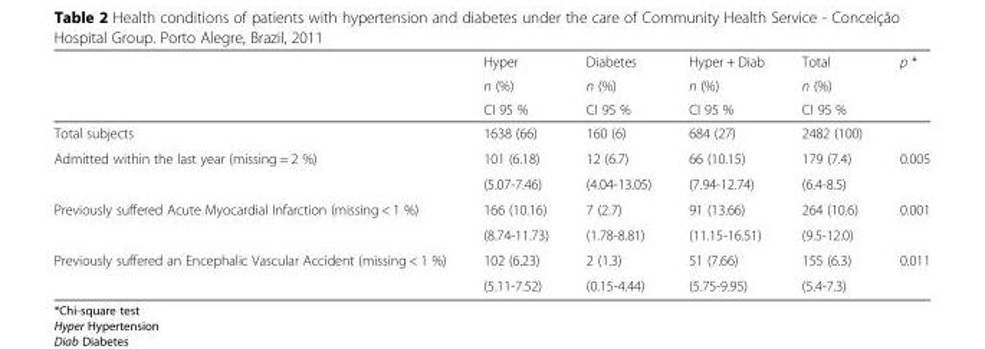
<table><thead><tr><td rowspan="3"></td><td rowspan="3">Hyper n (%) CI 95 %</td><td rowspan="3">Diabetes n (%) CI 95 %</td><td rowspan="3">Hyper + Diab n (%) CI 95 %</td><td rowspan="3">Total n (%) CI 95 %</td><td rowspan="3">p *</td></tr><tr></tr><tr></tr></thead><tbody><tr><td>Total subjects</td><td>1638 (66)</td><td>160 (6)</td><td>684 (27)</td><td>2482 (100)</td><td></td></tr><tr><td rowspan="2">Admitted within the last year (missing = 2 %)</td><td>101 (6.18)</td><td>12 (6.7)</td><td>66 (10.15)</td><td>179 (7.4)</td><td rowspan="2">0.005</td></tr><tr><td>(5.07-7.46)</td><td>(4.04-13.05)</td><td>(7.94-12.74)</td><td>(6.4-8.5)</td></tr><tr><td rowspan="2">Previously suffered Acute Myocardial Infarction (missing &lt; 1 %)</td><td>166 (10.16)</td><td>7 (2.7)</td><td>91 (13.66)</td><td>264 (10.6)</td><td rowspan="2">0.001</td></tr><tr><td>(8.74-11.73)</td><td>(1.78-8.81)</td><td>(11.15-16.51)</td><td>(9.5-12.0)</td></tr><tr><td rowspan="2">Previously suffered an Encephalic Vascular Accident (missing &lt; 1 %)</td><td>102 (6.23)</td><td>2 (1.3)</td><td>51 (7.66)</td><td>155 (6.3)</td><td rowspan="2">0.011</td></tr><tr><td>(5.11-7.52)</td><td>(0.15-4.44)</td><td>(5.75-9.95)</td><td>(5.4-7.3)</td></tr></tbody></table>